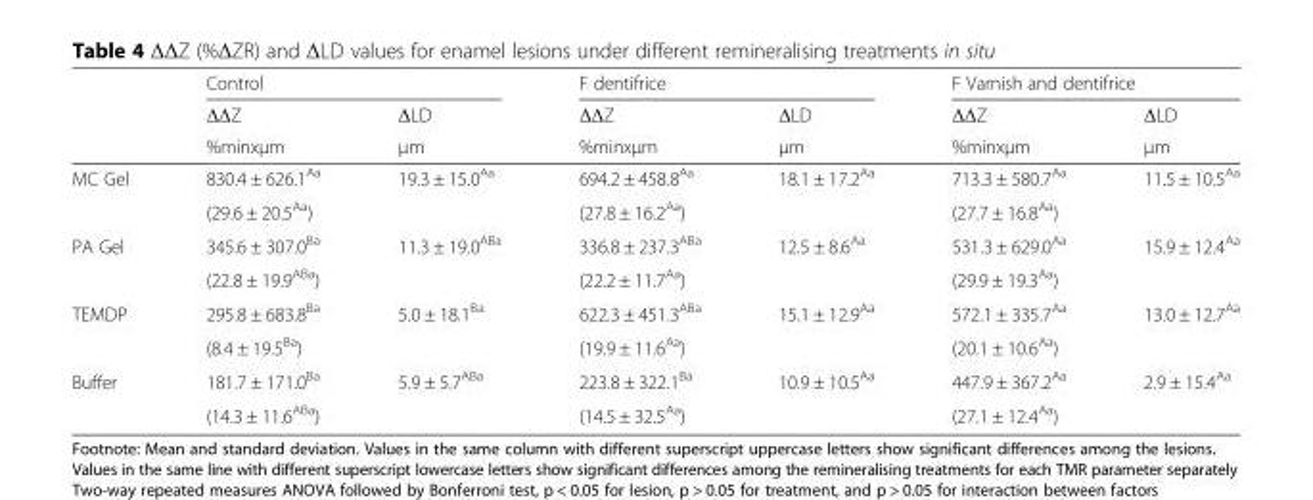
<table><thead><tr><td rowspan="3"></td><td colspan="2">Control</td><td colspan="2">F dentifrice</td><td colspan="2">F Varnish and dentifrice</td></tr><tr><td rowspan="2">ΔΔZ %minxμm</td><td rowspan="2">ΔLD μm</td><td rowspan="2">ΔΔZ %minxμm</td><td rowspan="2">ΔLD μm</td><td rowspan="2">ΔΔZ %minxμm</td><td rowspan="2">ΔLD μm</td></tr><tr></tr></thead><tbody><tr><td rowspan="2">MC Gel</td><td>830.4 ± 626.1<sup>Aa</sup></td><td>19.3 ± 15.0<sup>Aa</sup></td><td>694.2 ± 458.8<sup>Aa</sup></td><td>18.1 ± 17.2<sup>Aa</sup></td><td>713.3 ± 580.7<sup>Aa</sup></td><td>11.5 ± 10.5<sup>Aa</sup></td></tr><tr><td>(29.6 ± 20.5<sup>Aa</sup>)</td><td></td><td>(27.8 ± 16.2<sup>Aa</sup>)</td><td></td><td>(27.7 ± 16.8<sup>Aa</sup>)</td><td></td></tr><tr><td rowspan="2">PA Gel</td><td>345.6 ± 307.0<sup>Ba</sup></td><td>11.3 ± 19.0<sup>ABa</sup></td><td>336.8 ± 237.3<sup>ABa</sup></td><td>12.5 ± 8.6<sup>Aa</sup></td><td>531.3 ± 629.0<sup>Aa</sup></td><td>15.9 ± 12.4<sup>Aa</sup></td></tr><tr><td>(22.8 ± 19.9<sup>ABa</sup>)</td><td></td><td>(22.2 ± 11.7<sup>Aa</sup>)</td><td></td><td>(29.9 ± 19.3<sup>Aa</sup>)</td><td></td></tr><tr><td rowspan="2">TEMDP</td><td>295.8 ± 683.8<sup>Ba</sup></td><td>5.0 ± 18.1<sup>Ba</sup></td><td>622.3 ± 451.3<sup>ABa</sup></td><td>15.1 ± 12.9<sup>Aa</sup></td><td>572.1 ± 335.7<sup>Aa</sup></td><td>13.0 ± 12.7<sup>Aa</sup></td></tr><tr><td>(8.4 ± 19.5<sup>Ba</sup>)</td><td></td><td>(19.9 ± 11.6<sup>Aa</sup>)</td><td></td><td>(20.1 ± 10.6<sup>Aa</sup>)</td><td></td></tr><tr><td rowspan="2">Buffer</td><td>181.7 ± 171.0<sup>Ba</sup></td><td>5.9 ± 5.7<sup>ABa</sup></td><td>223.8 ± 322.1<sup>Ba</sup></td><td>10.9 ± 10.5<sup>Aa</sup></td><td>447.9 ± 367.2<sup>Aa</sup></td><td>2.9 ± 15.4<sup>Aa</sup></td></tr><tr><td>(14.3 ± 11.6<sup>ABa</sup>)</td><td></td><td>(14.5 ± 32.5<sup>Aa</sup>)</td><td></td><td>(27.1 ± 12.4<sup>Aa</sup>)</td><td></td></tr></tbody></table>